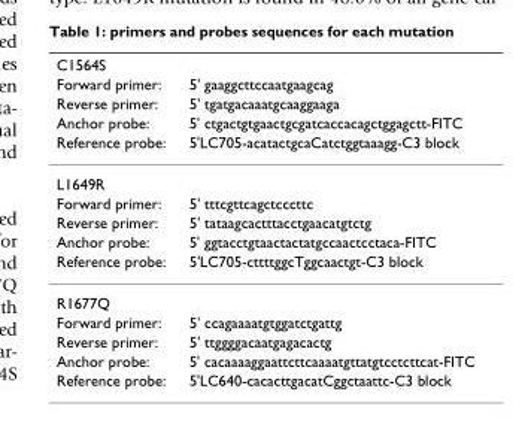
<table><thead><tr><td rowspan="5">C1564S Forward primer: Reverse primer: Anchor probe: Reference probe:</td><td rowspan="5">5&#x27; gaaggcttccaatgaagcag 5&#x27; tgatgacaaatgcaaggaaga 5&#x27; ctgactgtgaactgcgatcaccacagctggagctt-FITC 5&#x27;LC705-acatactgcaCatctggtaaagg-C3 block</td></tr><tr></tr><tr></tr><tr></tr><tr></tr></thead><tbody><tr><td colspan="2">L1649R</td></tr><tr><td>Forward primer:</td><td>5&#x27; tttcgttcagctcccttc</td></tr><tr><td>Reverse primer:</td><td>5&#x27; tataagcactttacctgaacatgtctg</td></tr><tr><td>Anchor probe:</td><td>5&#x27; ggtacctgtaactactatgccaactcctaca-FITC</td></tr><tr><td>Reference probe:</td><td>5&#x27;LC705-cttttggcTggcaactgt-C3 block</td></tr><tr><td colspan="2">R1677Q</td></tr><tr><td>Forward primer:</td><td>5&#x27; ccagaaaatgtggatctgattg</td></tr><tr><td>Reverse primer:</td><td>5&#x27; ttggggacaatgagacactg</td></tr><tr><td>Anchor probe:</td><td>5&#x27; cacaaaaggaattcttcaaaatgttatgtcctcttcat-FITC</td></tr><tr><td>Reference probe:</td><td>5&#x27;LC640-cacacttgacatCggctaattc-C3 block</td></tr></tbody></table>